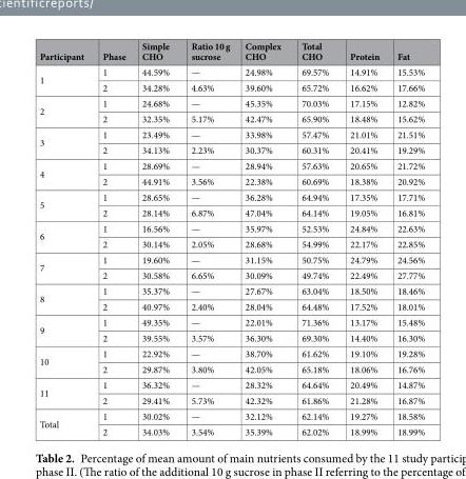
<table><thead><tr><td>Participant</td><td>Phase</td><td>Simple CHO</td><td>Ratio 10 g sucrose</td><td>Complex CHO</td><td>Total CHO</td><td>Protein</td><td>Fat</td></tr></thead><tbody><tr><td rowspan="2">1</td><td>1</td><td>44.59%</td><td>—</td><td>24.98%</td><td>69.57%</td><td>14.91%</td><td>15.53%</td></tr><tr><td>2</td><td>34.28%</td><td>4.63%</td><td>39.60%</td><td>65.72%</td><td>16.62%</td><td>17.66%</td></tr><tr><td rowspan="2">2</td><td>1</td><td>24.68%</td><td>—</td><td>45.35%</td><td>70.03%</td><td>17.15%</td><td>12.82%</td></tr><tr><td>2</td><td>32.35%</td><td>5.17%</td><td>42.47%</td><td>65.90%</td><td>18.48%</td><td>15.62%</td></tr><tr><td rowspan="2">3</td><td>1</td><td>23.49%</td><td>—</td><td>33.98%</td><td>57.47%</td><td>21.01%</td><td>21.51%</td></tr><tr><td>2</td><td>34.13%</td><td>2.23%</td><td>30.37%</td><td>60.31%</td><td>20.41%</td><td>19.29%</td></tr><tr><td rowspan="2">4</td><td>1</td><td>28.69%</td><td>—</td><td>28.94%</td><td>57.63%</td><td>20.65%</td><td>21.72%</td></tr><tr><td>2</td><td>44.91%</td><td>3.56%</td><td>22.38%</td><td>60.69%</td><td>18.38%</td><td>20.92%</td></tr><tr><td rowspan="2">5</td><td>1</td><td>28.65%</td><td>—</td><td>36.28%</td><td>64.94%</td><td>17.35%</td><td>17.71%</td></tr><tr><td>2</td><td>28.14%</td><td>6.87%</td><td>47.04%</td><td>64.14%</td><td>19.05%</td><td>16.81%</td></tr><tr><td rowspan="2">6</td><td>1</td><td>16.56%</td><td>—</td><td>35.97%</td><td>52.53%</td><td>24.84%</td><td>22.63%</td></tr><tr><td>2</td><td>30.14%</td><td>2.05%</td><td>28.68%</td><td>54.99%</td><td>22.17%</td><td>22.85%</td></tr><tr><td rowspan="2">7</td><td>1</td><td>19.60%</td><td>—</td><td>31.15%</td><td>50.75%</td><td>24.79%</td><td>24.56%</td></tr><tr><td>2</td><td>30.58%</td><td>6.65%</td><td>30.09%</td><td>49.74%</td><td>22.49%</td><td>27.77%</td></tr><tr><td rowspan="2">8</td><td>1</td><td>35.37%</td><td>—</td><td>27.67%</td><td>63.04%</td><td>18.50%</td><td>18.46%</td></tr><tr><td>2</td><td>40.97%</td><td>2.40%</td><td>28.04%</td><td>64.48%</td><td>17.52%</td><td>18.01%</td></tr><tr><td rowspan="2">9</td><td>1</td><td>49.35%</td><td>—</td><td>22.01%</td><td>71.36%</td><td>13.17%</td><td>15.48%</td></tr><tr><td>2</td><td>39.55%</td><td>3.57%</td><td>36.30%</td><td>69.30%</td><td>14.40%</td><td>16.30%</td></tr><tr><td rowspan="2">10</td><td>1</td><td>22.92%</td><td>—</td><td>38.70%</td><td>61.62%</td><td>19.10%</td><td>19.28%</td></tr><tr><td>2</td><td>29.87%</td><td>3.80%</td><td>42.05%</td><td>65.18%</td><td>18.06%</td><td>16.76%</td></tr><tr><td rowspan="2">11</td><td>1</td><td>36.32%</td><td>—</td><td>28.32%</td><td>64.64%</td><td>20.49%</td><td>14.87%</td></tr><tr><td>2</td><td>29.41%</td><td>5.73%</td><td>42.32%</td><td>61.86%</td><td>21.28%</td><td>16.87%</td></tr><tr><td rowspan="2">Total</td><td>1</td><td>30.02%</td><td>—</td><td>32.12%</td><td>62.14%</td><td>19.27%</td><td>18.58%</td></tr><tr><td>2</td><td>34.03%</td><td>3.54%</td><td>35.39%</td><td>62.02%</td><td>18.99%</td><td>18.99%</td></tr></tbody></table>